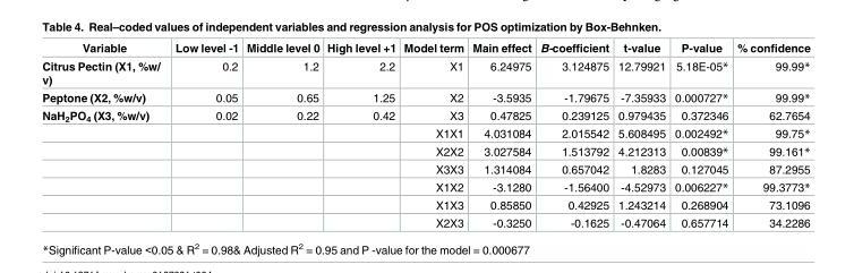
<table><thead><tr><td>Variable</td><td>Low level -1</td><td>Middle level 0</td><td>High level +1</td><td>Model term</td><td>Main effect</td><td>B-coefficient</td><td>t-value</td><td>P-value</td><td>% confidence</td></tr></thead><tbody><tr><td>Citrus Pectin (X1, %w/ v)</td><td>0.2</td><td>1.2</td><td>2.2</td><td>X1</td><td>6.24975</td><td>3.124875</td><td>12.79921</td><td>5.18E-05*</td><td>99.99*</td></tr><tr><td>Peptone (X2, %w/v)</td><td>0.05</td><td>0.65</td><td>1.25</td><td>X2</td><td>-3.5935</td><td>-1.79675</td><td>-7.35933</td><td>0.000727*</td><td>99.99*</td></tr><tr><td rowspan="7">NaH<sub>2</sub>PO<sub>4</sub> (X3, %w/v)</td><td>0.02</td><td>0.22</td><td>0.42</td><td>X3</td><td>0.47825</td><td>0.239125</td><td>0.979435</td><td>0.372346</td><td>62.7654</td></tr><tr><td></td><td></td><td></td><td>X1X1</td><td>4.031084</td><td>2.015542</td><td>5.608495</td><td>0.002492*</td><td>99.75*</td></tr><tr><td></td><td></td><td></td><td>X2X2</td><td>3.027584</td><td>1.513792</td><td>4.212313</td><td>0.00839*</td><td>99.161*</td></tr><tr><td></td><td></td><td></td><td>X3X3</td><td>1.314084</td><td>0.657042</td><td>1.8283</td><td>0.127045</td><td>87.2955</td></tr><tr><td></td><td></td><td></td><td>X1X2</td><td>-3.1280</td><td>-1.56400</td><td>-4.52973</td><td>0.006227*</td><td>99.3773*</td></tr><tr><td></td><td></td><td></td><td>X1X3</td><td>0.85850</td><td>0.42925</td><td>1.243214</td><td>0.268904</td><td>73.1096</td></tr><tr><td></td><td></td><td></td><td>X2X3</td><td>-0.3250</td><td>-0.1625</td><td>-0.47064</td><td>0.657714</td><td>34.2286</td></tr></tbody></table>